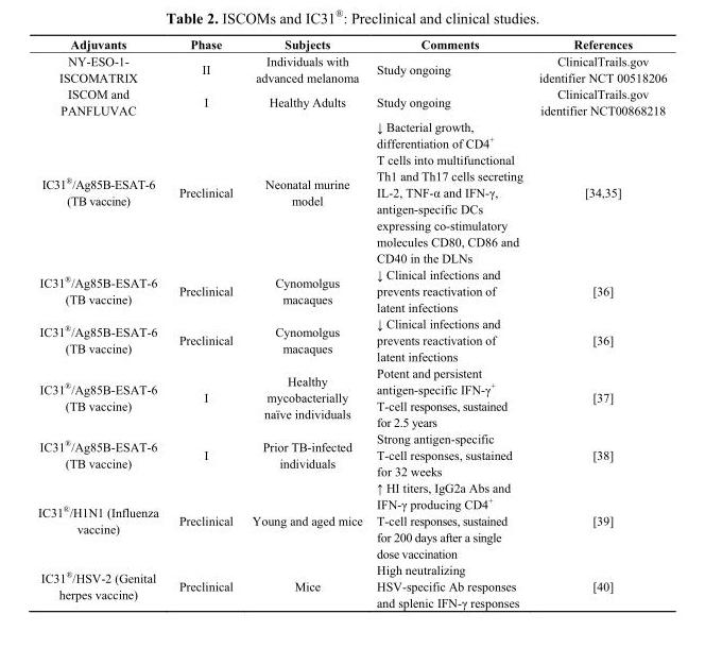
<table><thead><tr><td>Adjuvants</td><td>Phase</td><td>Subjects</td><td>Comments</td><td>References</td></tr></thead><tbody><tr><td>NY-ESO-1- ISCOMATRIX</td><td>II</td><td>Individuals with advanced melanoma</td><td>Study ongoing</td><td>ClinicalTrails.gov identifier NCT 00518206</td></tr><tr><td>ISCOM and PANFLUVAC</td><td>I</td><td>Healthy Adults</td><td>Study ongoing</td><td>ClinicalTrails.gov identifier NCT00868218</td></tr><tr><td>IC31<sup>®</sup>/Ag85B-ESAT-6 (TB vaccine)</td><td>Preclinical</td><td>Neonatal murine model</td><td>↓ Bacterial growth, differentiation of CD4<sup>+</sup> T cells into multifunctional Th1 and Th17 cells secreting IL-2, TNF-α and IFN-γ, antigen-specific DCs expressing co-stimulatory molecules CD80, CD86 and CD40 in the DLNs</td><td>[34,35]</td></tr><tr><td>IC31<sup>®</sup>/Ag85B-ESAT-6 (TB vaccine)</td><td>Preclinical</td><td>Cynomolgus macaques</td><td>↓ Clinical infections and prevents reactivation of latent infections</td><td>[36]</td></tr><tr><td>IC31<sup>®</sup>/Ag85B-ESAT-6 (TB vaccine)</td><td>Preclinical</td><td>Cynomolgus macaques</td><td>↓ Clinical infections and prevents reactivation of latent infections</td><td>[36]</td></tr><tr><td>IC31<sup>®</sup>/Ag85B-ESAT-6 (TB vaccine)</td><td>I</td><td>Healthy mycobacterially naïve individuals</td><td>Potent and persistent antigen-specific IFN-γ<sup>+</sup> T-cell responses, sustained for 2.5 years</td><td>[37]</td></tr><tr><td>IC31<sup>®</sup>/Ag85B-ESAT-6 (TB vaccine)</td><td>I</td><td>Prior TB-infected individuals</td><td>Strong antigen-specific T-cell responses, sustained for 32 weeks</td><td>[38]</td></tr><tr><td>IC31<sup>®</sup>/H1N1 (Influenza vaccine)</td><td>Preclinical</td><td>Young and aged mice</td><td>↑ HI titers, IgG2a Abs and IFN-γ producing CD4<sup>+</sup> T-cell responses, sustained for 200 days after a single dose vaccination</td><td>[39]</td></tr><tr><td>IC31<sup>®</sup>/HSV-2 (Genital herpes vaccine)</td><td>Preclinical</td><td>Mice</td><td>High neutralizing HSV-specific Ab responses and splenic IFN-γ responses</td><td>[40]</td></tr></tbody></table>